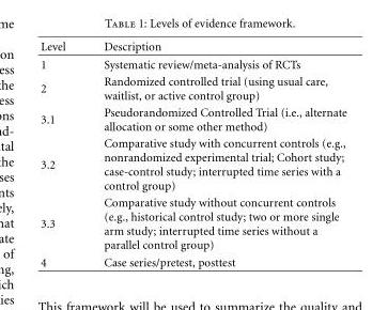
<table><thead><tr><td>Level</td><td>Description</td></tr></thead><tbody><tr><td>1</td><td>Systematic review/meta-analysis of RCTs</td></tr><tr><td>2</td><td>Randomized controlled trial (using usual care, waitlist, or active control group)</td></tr><tr><td>3.1</td><td>Pseudorandomized Controlled Trial (i.e., alternate allocation or some other method)</td></tr><tr><td>3.2</td><td>Comparative study with concurrent controls (e.g., nonrandomized experimental trial; Cohort study; case-control study; interrupted time series with a control group)</td></tr><tr><td>3.3</td><td>Comparative study without concurrent controls (e.g., historical control study; two or more single arm study; interrupted time series without a parallel control group)</td></tr><tr><td>4</td><td>Case series/pretest, posttest</td></tr></tbody></table>